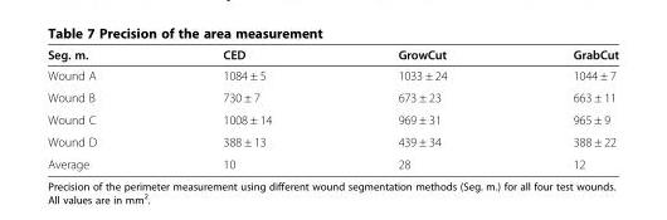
<table><thead><tr><td>Seg. m.</td><td>CED</td><td>GrowCut</td><td>GrabCut</td></tr></thead><tbody><tr><td>Wound A</td><td>1084 ± 5</td><td>1033 ± 24</td><td>1044 ± 7</td></tr><tr><td>Wound B</td><td>730 ± 7</td><td>673 ± 23</td><td>663 ± 11</td></tr><tr><td>Wound C</td><td>1008 ± 14</td><td>969 ± 31</td><td>965 ± 9</td></tr><tr><td>Wound D</td><td>388 ± 13</td><td>439 ± 34</td><td>388 ± 22</td></tr><tr><td>Average</td><td>10</td><td>28</td><td>12</td></tr></tbody></table>